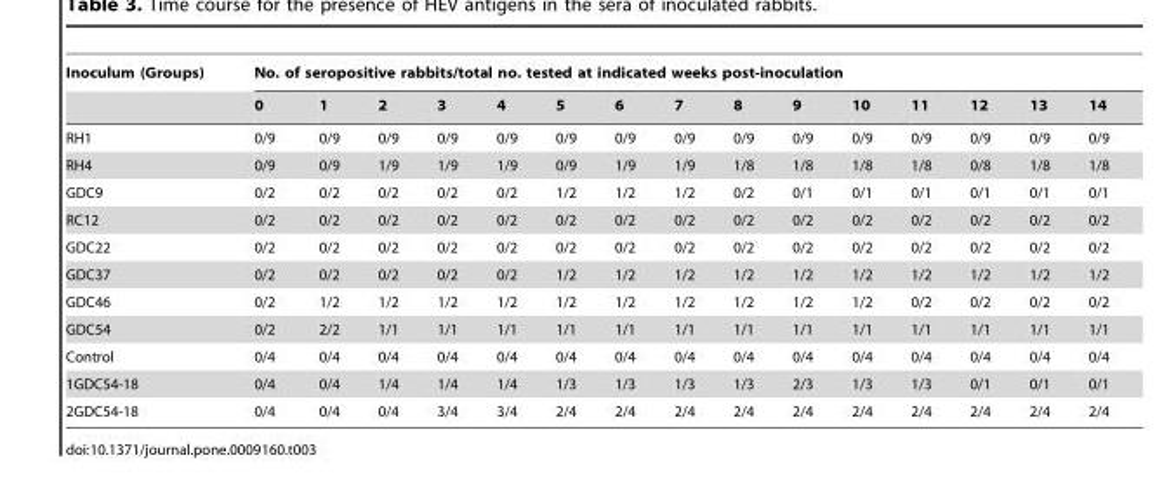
<table><thead><tr><td rowspan="2">Inoculum (Groups)</td><td colspan="15">No. of seropositive rabbits/total no. tested at indicated weeks post-inoculation</td></tr><tr><td>0</td><td>1</td><td>2</td><td>3</td><td>4</td><td>5</td><td>6</td><td>7</td><td>8</td><td>9</td><td>10</td><td>11</td><td>12</td><td>13</td><td>14</td></tr></thead><tbody><tr><td>RH1</td><td>0/9</td><td>0/9</td><td>0/9</td><td>0/9</td><td>0/9</td><td>0/9</td><td>0/9</td><td>0/9</td><td>0/9</td><td>0/9</td><td>0/9</td><td>0/9</td><td>0/9</td><td>0/9</td><td>0/9</td></tr><tr><td>RH4</td><td>0/9</td><td>0/9</td><td>1/9</td><td>1/9</td><td>1/9</td><td>0/9</td><td>1/9</td><td>1/9</td><td>1/8</td><td>1/8</td><td>1/8</td><td>1/8</td><td>0/8</td><td>1/8</td><td>1/8</td></tr><tr><td>GDC9</td><td>0/2</td><td>0/2</td><td>0/2</td><td>0/2</td><td>0/2</td><td>1/2</td><td>1/2</td><td>1/2</td><td>0/2</td><td>0/1</td><td>0/1</td><td>0/1</td><td>0/1</td><td>0/1</td><td>0/1</td></tr><tr><td>RC12</td><td>0/2</td><td>0/2</td><td>0/2</td><td>0/2</td><td>0/2</td><td>0/2</td><td>0/2</td><td>0/2</td><td>0/2</td><td>0/2</td><td>0/2</td><td>0/2</td><td>0/2</td><td>0/2</td><td>0/2</td></tr><tr><td>GDC22</td><td>0/2</td><td>0/2</td><td>0/2</td><td>0/2</td><td>0/2</td><td>0/2</td><td>0/2</td><td>0/2</td><td>0/2</td><td>0/2</td><td>0/2</td><td>0/2</td><td>0/2</td><td>0/2</td><td>0/2</td></tr><tr><td>GDC37</td><td>0/2</td><td>0/2</td><td>0/2</td><td>0/2</td><td>0/2</td><td>1/2</td><td>1/2</td><td>1/2</td><td>1/2</td><td>1/2</td><td>1/2</td><td>1/2</td><td>1/2</td><td>1/2</td><td>1/2</td></tr><tr><td>GDC46</td><td>0/2</td><td>1/2</td><td>1/2</td><td>1/2</td><td>1/2</td><td>1/2</td><td>1/2</td><td>1/2</td><td>1/2</td><td>1/2</td><td>1/2</td><td>0/2</td><td>0/2</td><td>0/2</td><td>0/2</td></tr><tr><td>GDC54</td><td>0/2</td><td>2/2</td><td>1/1</td><td>1/1</td><td>1/1</td><td>1/1</td><td>1/1</td><td>1/1</td><td>1/1</td><td>1/1</td><td>1/1</td><td>1/1</td><td>1/1</td><td>1/1</td><td>1/1</td></tr><tr><td>Control</td><td>0/4</td><td>0/4</td><td>0/4</td><td>0/4</td><td>0/4</td><td>0/4</td><td>0/4</td><td>0/4</td><td>0/4</td><td>0/4</td><td>0/4</td><td>0/4</td><td>0/4</td><td>0/4</td><td>0/4</td></tr><tr><td>1GDC54-18</td><td>0/4</td><td>0/4</td><td>1/4</td><td>1/4</td><td>1/4</td><td>1/3</td><td>1/3</td><td>1/3</td><td>1/3</td><td>2/3</td><td>1/3</td><td>1/3</td><td>0/1</td><td>0/1</td><td>0/1</td></tr><tr><td>2GDC54-18</td><td>0/4</td><td>0/4</td><td>0/4</td><td>3/4</td><td>3/4</td><td>2/4</td><td>2/4</td><td>2/4</td><td>2/4</td><td>2/4</td><td>2/4</td><td>2/4</td><td>2/4</td><td>2/4</td><td>2/4</td></tr></tbody></table>